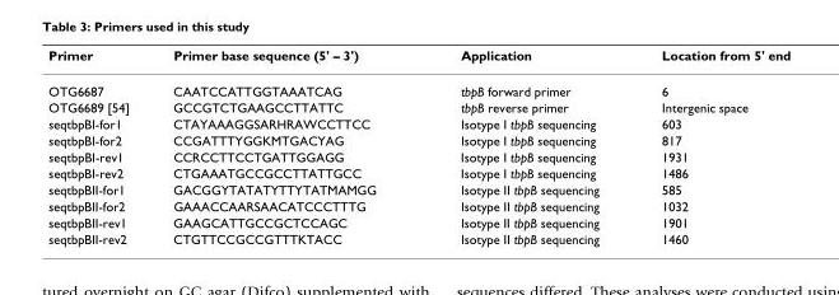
<table><thead><tr><td>Primer</td><td>Primer base sequence (5&#x27; – 3&#x27;)</td><td>Application</td><td>Location from 5&#x27; end</td></tr></thead><tbody><tr><td>OTG6687</td><td>CAATCCATTGGTAAATCAG</td><td>tbpB forward primer</td><td>6</td></tr><tr><td>OTG6689 [54]</td><td>GCCGTCTGAAGCCTTATTC</td><td>tbpB reverse primer</td><td>Intergenic space</td></tr><tr><td>seqtbpBI-for1</td><td>CTAYAAAGGSARHRAWCCTTCC</td><td>Isotype I tbpB sequencing</td><td>603</td></tr><tr><td>seqtbpBI-for2</td><td>CCGATTTYGGKMTGACYAG</td><td>Isotype I tbpB sequencing</td><td>817</td></tr><tr><td>seqtbpBI-rev1</td><td>CCRCCTTCCTGATTGGAGG</td><td>Isotype I tbpB sequencing</td><td>1931</td></tr><tr><td>seqtbpBI-rev2</td><td>CTGAAATGCCGCCTTATTGCC</td><td>Isotype I tbpB sequencing</td><td>1486</td></tr><tr><td>seqtbpBII-for1</td><td>GACGGYTATATYTTYTATMAMGG</td><td>Isotype II tbpB sequencing</td><td>585</td></tr><tr><td>seqtbpBII-for2</td><td>GAAACCAARSAACATCCCTTTG</td><td>Isotype II tbpB sequencing</td><td>1032</td></tr><tr><td>seqtbpBII-rev1</td><td>GAAGCATTGCCGCTCCAGC</td><td>Isotype II tbpB sequencing</td><td>1901</td></tr><tr><td>seqtbpBII-rev2</td><td>CTGTTCCGCCGTTTKTACC</td><td>Isotype II tbpB sequencing</td><td>1460</td></tr></tbody></table>